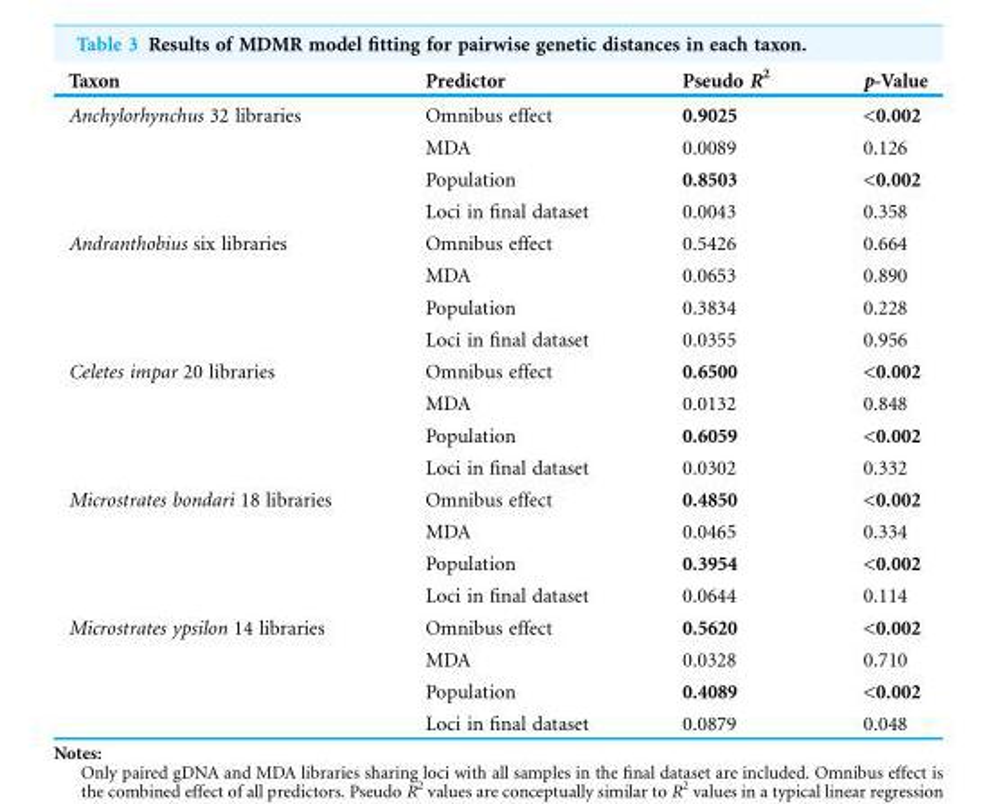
<table><thead><tr><td>Taxon</td><td>Predictor</td><td>Pseudo R<sup>2</sup></td><td>p-Value</td></tr></thead><tbody><tr><td rowspan="4">Anchylorhynchus 32 libraries</td><td>Omnibus effect</td><td>0.9025</td><td>&lt;0.002</td></tr><tr><td>MDA</td><td>0.0089</td><td>0.126</td></tr><tr><td>Population</td><td>0.8503</td><td>&lt;0.002</td></tr><tr><td>Loci in final dataset</td><td>0.0043</td><td>0.358</td></tr><tr><td rowspan="4">Andranthobius six libraries</td><td>Omnibus effect</td><td>0.5426</td><td>0.664</td></tr><tr><td>MDA</td><td>0.0653</td><td>0.890</td></tr><tr><td>Population</td><td>0.3834</td><td>0.228</td></tr><tr><td>Loci in final dataset</td><td>0.0355</td><td>0.956</td></tr><tr><td rowspan="4">Celetes impar 20 libraries</td><td>Omnibus effect</td><td>0.6500</td><td>&lt;0.002</td></tr><tr><td>MDA</td><td>0.0132</td><td>0.848</td></tr><tr><td>Population</td><td>0.6059</td><td>&lt;0.002</td></tr><tr><td>Loci in final dataset</td><td>0.0302</td><td>0.332</td></tr><tr><td rowspan="4">Microstrates bondari 18 libraries</td><td>Omnibus effect</td><td>0.4850</td><td>&lt;0.002</td></tr><tr><td>MDA</td><td>0.0465</td><td>0.334</td></tr><tr><td>Population</td><td>0.3954</td><td>&lt;0.002</td></tr><tr><td>Loci in final dataset</td><td>0.0644</td><td>0.114</td></tr><tr><td rowspan="4">Microstrates ypsilon 14 libraries</td><td>Omnibus effect</td><td>0.5620</td><td>&lt;0.002</td></tr><tr><td>MDA</td><td>0.0328</td><td>0.710</td></tr><tr><td>Population</td><td>0.4089</td><td>&lt;0.002</td></tr><tr><td>Loci in final dataset</td><td>0.0879</td><td>0.048</td></tr></tbody></table>